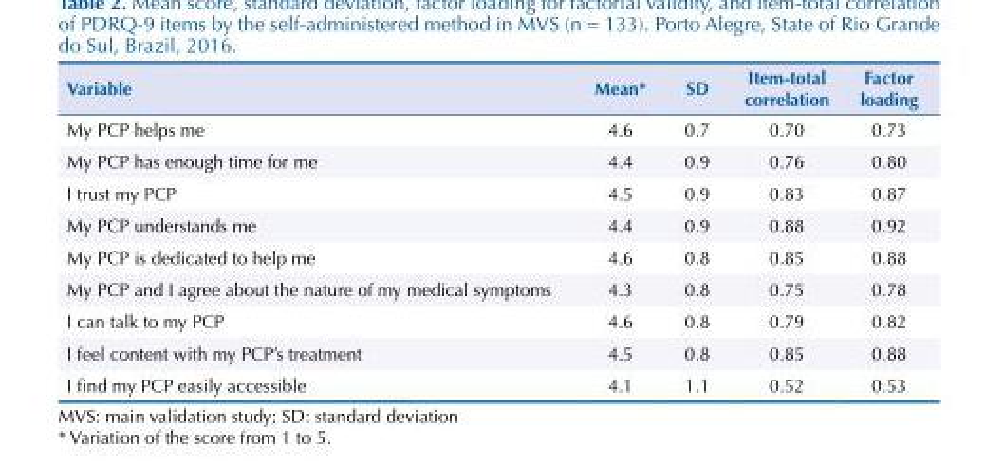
<table><thead><tr><td>Variable</td><td>Mean*</td><td>SD</td><td>Item-total correlation</td><td>Factor loading</td></tr></thead><tbody><tr><td>My PCP helps me</td><td>4.6</td><td>0.7</td><td>0.70</td><td>0.73</td></tr><tr><td>My PCP has enough time for me</td><td>4.4</td><td>0.9</td><td>0.76</td><td>0.80</td></tr><tr><td>I trust my PCP</td><td>4.5</td><td>0.9</td><td>0.83</td><td>0.87</td></tr><tr><td>My PCP understands me</td><td>4.4</td><td>0.9</td><td>0.88</td><td>0.92</td></tr><tr><td>My PCP is dedicated to help me</td><td>4.6</td><td>0.8</td><td>0.85</td><td>0.88</td></tr><tr><td>My PCP and I agree about the nature of my medical symptoms</td><td>4.3</td><td>0.8</td><td>0.75</td><td>0.78</td></tr><tr><td>I can talk to my PCP</td><td>4.6</td><td>0.8</td><td>0.79</td><td>0.82</td></tr><tr><td>I feel content with my PCP’s treatment</td><td>4.5</td><td>0.8</td><td>0.85</td><td>0.88</td></tr><tr><td>I find my PCP easily accessible</td><td>4.1</td><td>1.1</td><td>0.52</td><td>0.53</td></tr></tbody></table>